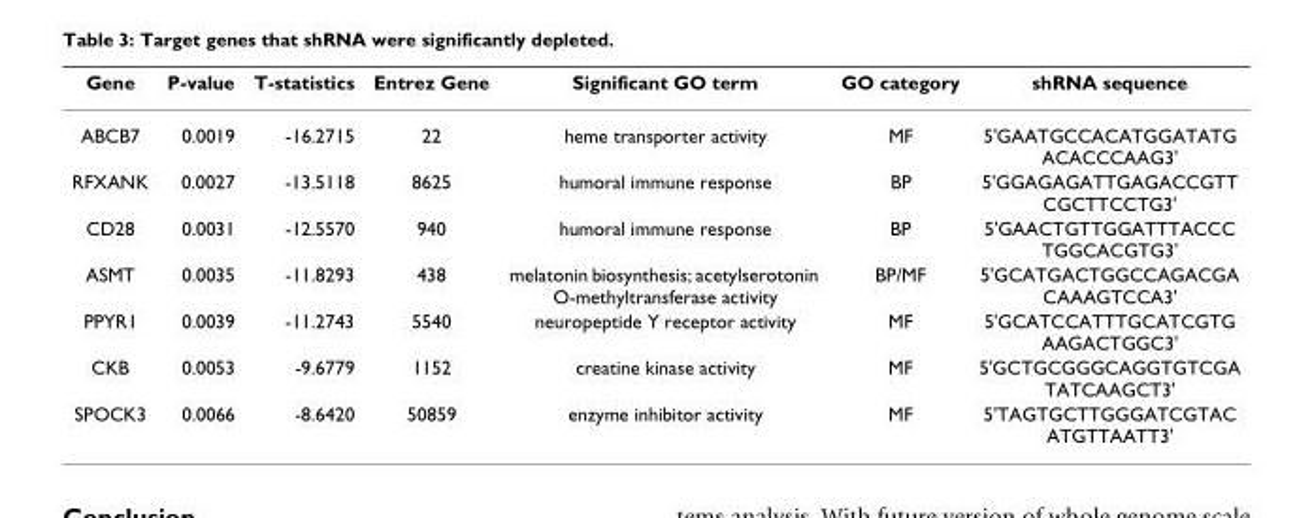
<table><thead><tr><td>Gene</td><td>P-value</td><td>T-statistics</td><td>Entrez Gene</td><td>Significant GO term</td><td>GO category</td><td>shRNA sequence</td></tr></thead><tbody><tr><td>ABCB7</td><td>0.0019</td><td>-16.2715</td><td>22</td><td>heme transporter activity</td><td>MF</td><td>5&#x27;GAATGCCACATGGATATG ACACCCAAG3&#x27;</td></tr><tr><td>RFXANK</td><td>0.0027</td><td>-13.5118</td><td>8625</td><td>humoral immune response</td><td>BP</td><td>5&#x27;GGAGAGATTGAGACCGTT CGCTTCCTG3&#x27;</td></tr><tr><td>CD28</td><td>0.0031</td><td>-12.5570</td><td>940</td><td>humoral immune response</td><td>BP</td><td>5&#x27;GAACTGTTGGATTTACCC TGGCACGTG3&#x27;</td></tr><tr><td>ASMT</td><td>0.0035</td><td>-11.8293</td><td>438</td><td>melatonin biosynthesis; acetylserotonin O-methyltransferase activity</td><td>BP/MF</td><td>5&#x27;GCATGACTGGCCAGACGA CAAAGTCCA3&#x27;</td></tr><tr><td>PPYR1</td><td>0.0039</td><td>-11.2743</td><td>5540</td><td>neuropeptide Y receptor activity</td><td>MF</td><td>5&#x27;GCATCCATTTGCATCGTG AAGACTGGC3&#x27;</td></tr><tr><td>CKB</td><td>0.0053</td><td>-9.6779</td><td>1152</td><td>creatine kinase activity</td><td>MF</td><td>5&#x27;GCTGCGGGCAGGTGTCGA TATCAAGCT3&#x27;</td></tr><tr><td>SPOCK3</td><td>0.0066</td><td>-8.6420</td><td>50859</td><td>enzyme inhibitor activity</td><td>MF</td><td>5&#x27;TAGTGCTTGGGATCGTAC ATGTTAATT3&#x27;</td></tr></tbody></table>